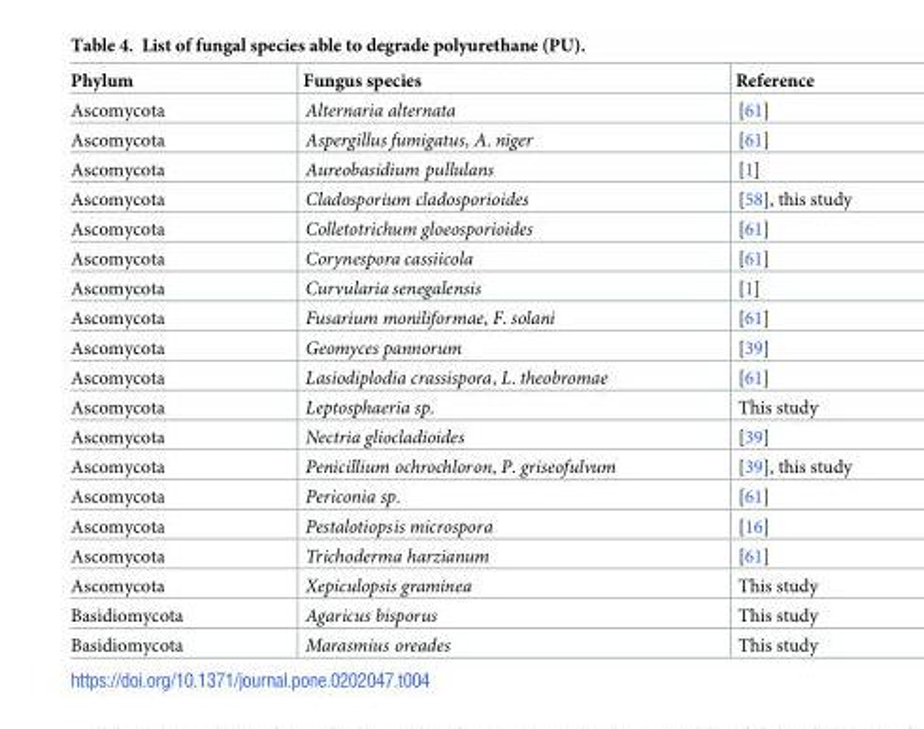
<table><thead><tr><td>Phylum</td><td>Fungus species</td><td>Reference</td></tr></thead><tbody><tr><td>Ascomycota</td><td>Alternaria alternata</td><td>[61]</td></tr><tr><td>Ascomycota</td><td>Aspergillus fumigatus, A. niger</td><td>[61]</td></tr><tr><td>Ascomycota</td><td>Aureobasidium pullulans</td><td>[1]</td></tr><tr><td>Ascomycota</td><td>Cladosporium cladosporioides</td><td>[58], this study</td></tr><tr><td>Ascomycota</td><td>Colletotrichum gloeosporioides</td><td>[61]</td></tr><tr><td>Ascomycota</td><td>Corynespora cassiicola</td><td>[61]</td></tr><tr><td>Ascomycota</td><td>Curvularia senegalensis</td><td>[1]</td></tr><tr><td>Ascomycota</td><td>Fusarium moniliformae, F. solani</td><td>[61]</td></tr><tr><td>Ascomycota</td><td>Geomyces pannorum</td><td>[39]</td></tr><tr><td>Ascomycota</td><td>Lasiodiplodia crassispora, L. theobromae</td><td>[61]</td></tr><tr><td>Ascomycota</td><td>Leptosphaeria sp.</td><td>This study</td></tr><tr><td>Ascomycota</td><td>Nectria gliocladioides</td><td>[39]</td></tr><tr><td>Ascomycota</td><td>Penicillium ochrochloron, P. griseofulvum</td><td>[39], this study</td></tr><tr><td>Ascomycota</td><td>Periconia sp.</td><td>[61]</td></tr><tr><td>Ascomycota</td><td>Pestalotiopsis microspora</td><td>[16]</td></tr><tr><td>Ascomycota</td><td>Trichoderma harzianum</td><td>[61]</td></tr><tr><td>Ascomycota</td><td>Xepiculopsis graminea</td><td>This study</td></tr><tr><td>Basidiomycota</td><td>Agaricus bisporus</td><td>This study</td></tr><tr><td>Basidiomycota</td><td>Marasmius oreades</td><td>This study</td></tr></tbody></table>